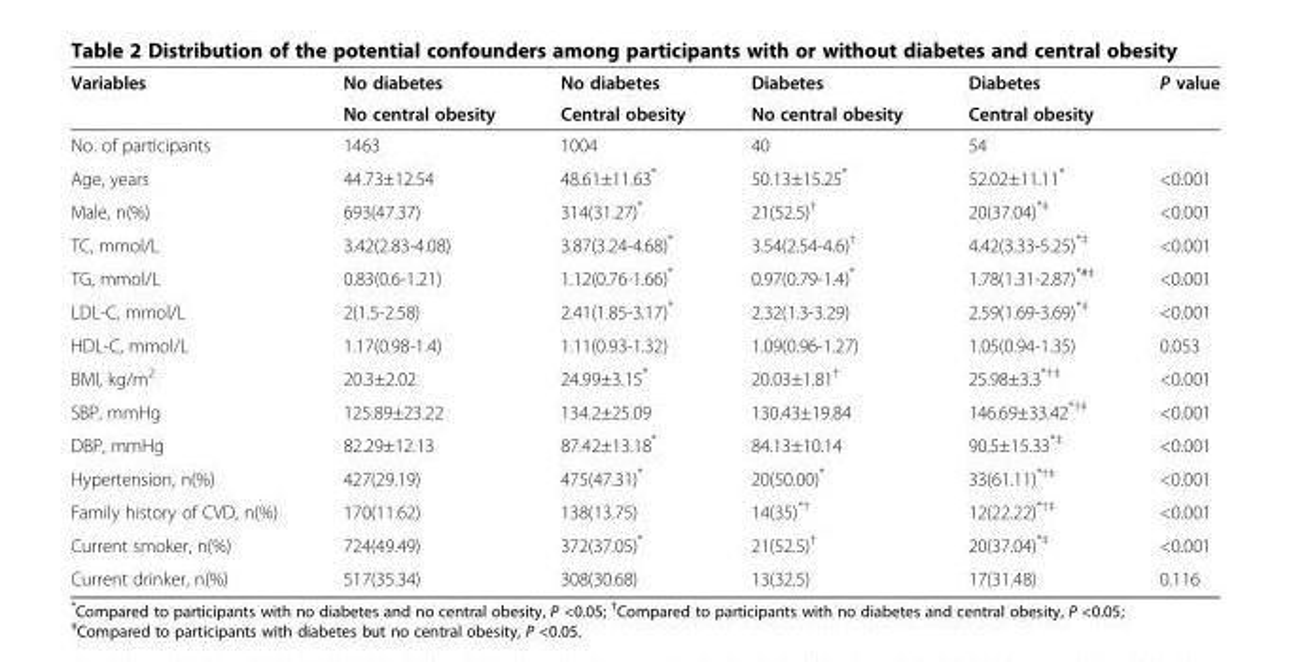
<table><thead><tr><td rowspan="2">Variables</td><td rowspan="2">No diabetes No central obesity</td><td rowspan="2">No diabetes Central obesity</td><td rowspan="2">Diabetes No central obesity</td><td rowspan="2">Diabetes Central obesity</td><td rowspan="2">P value</td></tr><tr></tr></thead><tbody><tr><td>No. of participants</td><td>1463</td><td>1004</td><td>40</td><td>54</td><td></td></tr><tr><td>Age, years</td><td>44.73±12.54</td><td>48.61±11.63*</td><td>50.13±15.25*</td><td>52.02±11.11*</td><td>&lt;0.001</td></tr><tr><td>Male, n(%)</td><td>693(47.37)</td><td>314(31.27)*</td><td>21(52.5)<sup>†</sup></td><td>20(37.04)<sup>*‡</sup></td><td>&lt;0.001</td></tr><tr><td>TC, mmol/L</td><td>3.42(2.83-4.08)</td><td>3.87(3.24-4.68)*</td><td>3.54(2.54-4.6)<sup>†</sup></td><td>4.42(3.33-5.25)<sup>*‡</sup></td><td>&lt;0.001</td></tr><tr><td>TG, mmol/L</td><td>0.83(0.6-1.21)</td><td>1.12(0.76-1.66)*</td><td>0.97(0.79-1.4)*</td><td>1.78(1.31-2.87)<sup>*#‡</sup></td><td>&lt;0.001</td></tr><tr><td>LDL-C, mmol/L</td><td>2(1.5-2.58)</td><td>2.41(1.85-3.17)*</td><td>2.32(1.3-3.29)</td><td>2.59(1.69-3.69)<sup>*‡</sup></td><td>&lt;0.001</td></tr><tr><td>HDL-C, mmol/L</td><td>1.17(0.98-1.4)</td><td>1.11(0.93-1.32)</td><td>1.09(0.96-1.27)</td><td>1.05(0.94-1.35)</td><td>0.053</td></tr><tr><td>BMI, kg/m<sup>2</sup></td><td>20.3±2.02</td><td>24.99±3.15*</td><td>20.03±1.81<sup>†</sup></td><td>25.98±3.3<sup>*†‡</sup></td><td>&lt;0.001</td></tr><tr><td>SBP, mmHg</td><td>125.89±23.22</td><td>134.2±25.09</td><td>130.43±19.84</td><td>146.69±33.42<sup>*†‡</sup></td><td>&lt;0.001</td></tr><tr><td>DBP, mmHg</td><td>82.29±12.13</td><td>87.42±13.18*</td><td>84.13±10.14</td><td>90.5±15.33<sup>*‡</sup></td><td>&lt;0.001</td></tr><tr><td>Hypertension, n(%)</td><td>427(29.19)</td><td>475(47.31)*</td><td>20(50.00)*</td><td>33(61.11)<sup>*†‡</sup></td><td>&lt;0.001</td></tr><tr><td>Family history of CVD, n(%)</td><td>170(11.62)</td><td>138(13.75)</td><td>14(35)<sup>*†</sup></td><td>12(22.22)<sup>*†‡</sup></td><td>&lt;0.001</td></tr><tr><td>Current smoker, n(%)</td><td>724(49.49)</td><td>372(37.05)*</td><td>21(52.5)<sup>†</sup></td><td>20(37.04)<sup>*‡</sup></td><td>&lt;0.001</td></tr><tr><td>Current drinker, n(%)</td><td>517(35.34)</td><td>308(30.68)</td><td>13(32.5)</td><td>17(31.48)</td><td>0.116</td></tr></tbody></table>